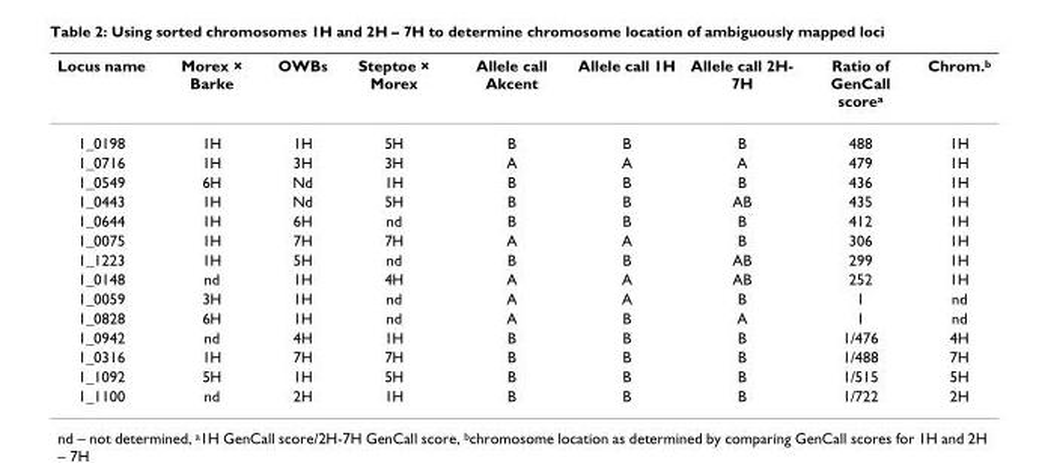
<table><thead><tr><td>Locus name</td><td>Morex × Barke</td><td>OWBs</td><td>Steptoe × Morex</td><td>Allele call Akcent</td><td>Allele call 1H</td><td>Allele call 2H- 7H</td><td>Ratio of GenCall score<sup>a</sup></td><td>Chrom.<sup>b</sup></td></tr></thead><tbody><tr><td>1_0198</td><td>1H</td><td>1H</td><td>5H</td><td>B</td><td>B</td><td>B</td><td>488</td><td>1H</td></tr><tr><td>1_0716</td><td>1H</td><td>3H</td><td>3H</td><td>A</td><td>A</td><td>A</td><td>479</td><td>1H</td></tr><tr><td>1_0549</td><td>6H</td><td>Nd</td><td>1H</td><td>B</td><td>B</td><td>B</td><td>436</td><td>1H</td></tr><tr><td>1_0443</td><td>1H</td><td>Nd</td><td>5H</td><td>B</td><td>B</td><td>AB</td><td>435</td><td>1H</td></tr><tr><td>1_0644</td><td>1H</td><td>6H</td><td>nd</td><td>B</td><td>B</td><td>B</td><td>412</td><td>1H</td></tr><tr><td>1_0075</td><td>1H</td><td>7H</td><td>7H</td><td>A</td><td>A</td><td>B</td><td>306</td><td>1H</td></tr><tr><td>1_1223</td><td>1H</td><td>5H</td><td>nd</td><td>B</td><td>B</td><td>AB</td><td>299</td><td>1H</td></tr><tr><td>1_0148</td><td>nd</td><td>1H</td><td>4H</td><td>A</td><td>A</td><td>AB</td><td>252</td><td>1H</td></tr><tr><td>1_0059</td><td>3H</td><td>1H</td><td>nd</td><td>A</td><td>A</td><td>B</td><td>1</td><td>nd</td></tr><tr><td>1_0828</td><td>6H</td><td>1H</td><td>nd</td><td>A</td><td>B</td><td>A</td><td>1</td><td>nd</td></tr><tr><td>1_0942</td><td>nd</td><td>4H</td><td>1H</td><td>B</td><td>B</td><td>B</td><td>1/476</td><td>4H</td></tr><tr><td>1_0316</td><td>1H</td><td>7H</td><td>7H</td><td>B</td><td>B</td><td>B</td><td>1/488</td><td>7H</td></tr><tr><td>1_1092</td><td>5H</td><td>1H</td><td>5H</td><td>B</td><td>B</td><td>B</td><td>1/515</td><td>5H</td></tr><tr><td>1_1100</td><td>nd</td><td>2H</td><td>1H</td><td>B</td><td>B</td><td>B</td><td>1/722</td><td>2H</td></tr></tbody></table>